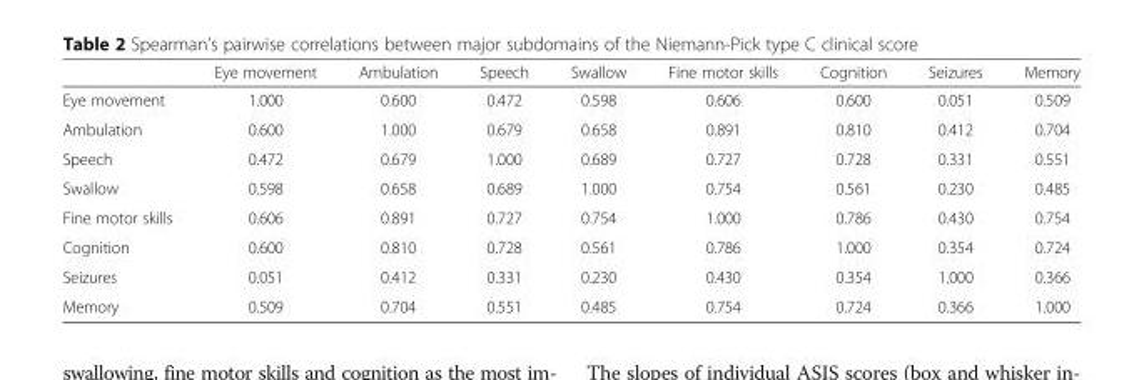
<table><thead><tr><td></td><td>Eye movement</td><td>Ambulation</td><td>Speech</td><td>Swallow</td><td>Fine motor skills</td><td>Cognition</td><td>Seizures</td><td>Memory</td></tr></thead><tbody><tr><td>Eye movement</td><td>1.000</td><td>0.600</td><td>0.472</td><td>0.598</td><td>0.606</td><td>0.600</td><td>0.051</td><td>0.509</td></tr><tr><td>Ambulation</td><td>0.600</td><td>1.000</td><td>0.679</td><td>0.658</td><td>0.891</td><td>0.810</td><td>0.412</td><td>0.704</td></tr><tr><td>Speech</td><td>0.472</td><td>0.679</td><td>1.000</td><td>0.689</td><td>0.727</td><td>0.728</td><td>0.331</td><td>0.551</td></tr><tr><td>Swallow</td><td>0.598</td><td>0.658</td><td>0.689</td><td>1.000</td><td>0.754</td><td>0.561</td><td>0.230</td><td>0.485</td></tr><tr><td>Fine motor skills</td><td>0.606</td><td>0.891</td><td>0.727</td><td>0.754</td><td>1.000</td><td>0.786</td><td>0.430</td><td>0.754</td></tr><tr><td>Cognition</td><td>0.600</td><td>0.810</td><td>0.728</td><td>0.561</td><td>0.786</td><td>1.000</td><td>0.354</td><td>0.724</td></tr><tr><td>Seizures</td><td>0.051</td><td>0.412</td><td>0.331</td><td>0.230</td><td>0.430</td><td>0.354</td><td>1.000</td><td>0.366</td></tr><tr><td>Memory</td><td>0.509</td><td>0.704</td><td>0.551</td><td>0.485</td><td>0.754</td><td>0.724</td><td>0.366</td><td>1.000</td></tr></tbody></table>